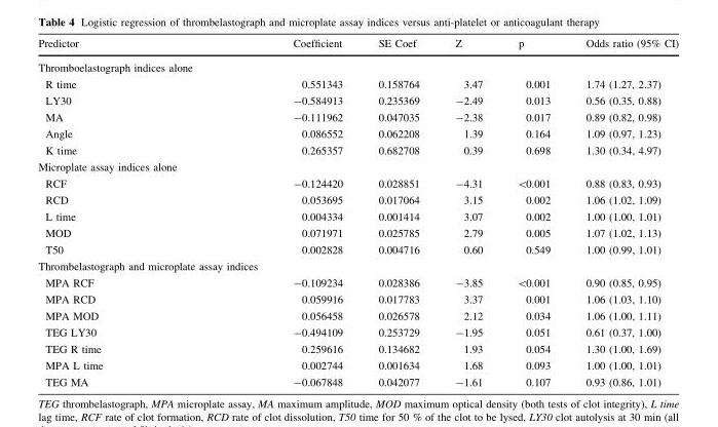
<table><thead><tr><td>Predictor</td><td>Coefficient</td><td>SE Coef</td><td>Z</td><td>p</td><td>Odds ratio (95% CI)</td></tr></thead><tbody><tr><td colspan="6">Thromboelastograph indices alone</td></tr><tr><td>R time</td><td>0.551343</td><td>0.158764</td><td>3.47</td><td>0.001</td><td>1.74 (1.27, 2.37)</td></tr><tr><td>LY30</td><td>-0.584913</td><td>0.235369</td><td>-2.49</td><td>0.013</td><td>0.56 (0.35, 0.88)</td></tr><tr><td>MA</td><td>-0.111962</td><td>0.047035</td><td>-2.38</td><td>0.017</td><td>0.89 (0.82, 0.98)</td></tr><tr><td>Angle</td><td>0.086552</td><td>0.062208</td><td>1.39</td><td>0.164</td><td>1.09 (0.97, 1.23)</td></tr><tr><td>K time</td><td>0.265357</td><td>0.682708</td><td>0.39</td><td>0.698</td><td>1.30 (0.34, 4.97)</td></tr><tr><td colspan="6">Microplate assay indices alone</td></tr><tr><td>RCF</td><td>-0.124420</td><td>0.028851</td><td>-4.31</td><td>&lt;0.001</td><td>0.88 (0.83, 0.93)</td></tr><tr><td>RCD</td><td>0.053695</td><td>0.017064</td><td>3.15</td><td>0.002</td><td>1.06 (1.02, 1.09)</td></tr><tr><td>L time</td><td>0.004334</td><td>0.001414</td><td>3.07</td><td>0.002</td><td>1.00 (1.00, 1.01)</td></tr><tr><td>MOD</td><td>0.071971</td><td>0.025785</td><td>2.79</td><td>0.005</td><td>1.07 (1.02, 1.13)</td></tr><tr><td>T50</td><td>0.002828</td><td>0.004716</td><td>0.60</td><td>0.549</td><td>1.00 (0.99, 1.01)</td></tr><tr><td colspan="6">Thrombelastograph and microplate assay indices</td></tr><tr><td>MPA RCF</td><td>-0.109234</td><td>0.028386</td><td>-3.85</td><td>&lt;0.001</td><td>0.90 (0.85, 0.95)</td></tr><tr><td>MPA RCD</td><td>0.059916</td><td>0.017783</td><td>3.37</td><td>0.001</td><td>1.06 (1.03, 1.10)</td></tr><tr><td>MPA MOD</td><td>0.056458</td><td>0.026578</td><td>2.12</td><td>0.034</td><td>1.06 (1.00, 1.11)</td></tr><tr><td>TEG LY30</td><td>-0.494109</td><td>0.253729</td><td>-1.95</td><td>0.051</td><td>0.61 (0.37, 1.00)</td></tr><tr><td>TEG R time</td><td>0.259616</td><td>0.134682</td><td>1.93</td><td>0.054</td><td>1.30 (1.00, 1.69)</td></tr><tr><td>MPA L time</td><td>0.002744</td><td>0.001634</td><td>1.68</td><td>0.093</td><td>1.00 (1.00, 1.01)</td></tr><tr><td>TEG MA</td><td>-0.067848</td><td>0.042077</td><td>-1.61</td><td>0.107</td><td>0.93 (0.86, 1.01)</td></tr></tbody></table>